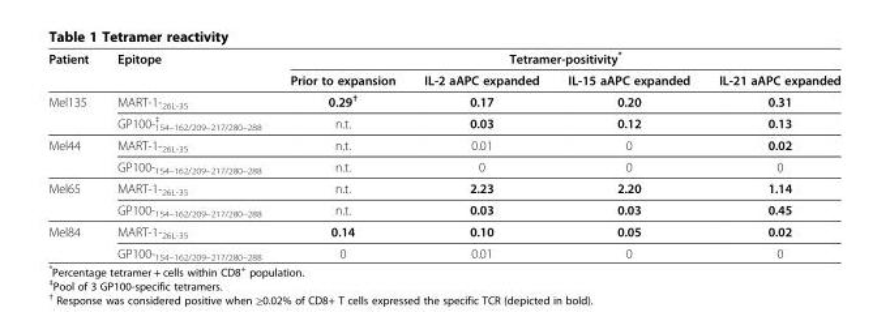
<table><thead><tr><td rowspan="2">Patient</td><td rowspan="2">Epitope</td><td colspan="4">Tetramer-positivity*</td></tr><tr><td>Prior to expansion</td><td>IL-2 aAPC expanded</td><td>IL-15 aAPC expanded</td><td>IL-21 aAPC expanded</td></tr></thead><tbody><tr><td rowspan="2">Mel135</td><td>MART-1-<sub>26L-35</sub></td><td>0.29<sup>†</sup></td><td>0.17</td><td>0.20</td><td>0.31</td></tr><tr><td>GP100-<sub>154–162/209–217/280–288</sub> <sup>‡</sup></td><td>n.t.</td><td>0.03</td><td>0.12</td><td>0.13</td></tr><tr><td rowspan="2">Mel44</td><td>MART-1-<sub>26L-35</sub></td><td>n.t.</td><td>0.01</td><td>0</td><td>0.02</td></tr><tr><td>GP100-<sub>154–162/209–217/280–288</sub></td><td>n.t.</td><td>0</td><td>0</td><td>0</td></tr><tr><td rowspan="2">Mel65</td><td>MART-1-<sub>26L-35</sub></td><td>n.t.</td><td>2.23</td><td>2.20</td><td>1.14</td></tr><tr><td>GP100-<sub>154–162/209–217/280–288</sub></td><td>n.t.</td><td>0.03</td><td>0.03</td><td>0.45</td></tr><tr><td rowspan="2">Mel84</td><td>MART-1-<sub>26L-35</sub></td><td>0.14</td><td>0.10</td><td>0.05</td><td>0.02</td></tr><tr><td>GP100-<sub>154–162/209–217/280–288</sub></td><td>0</td><td>0.01</td><td>0</td><td>0</td></tr></tbody></table>